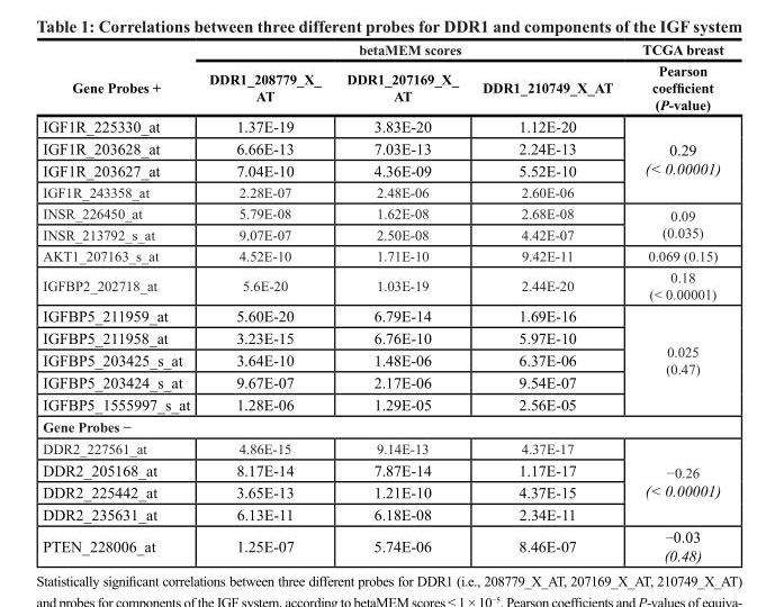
<table><thead><tr><td rowspan="2">Gene Probes +</td><td colspan="3">betaMEM scores</td><td rowspan="2">TCGA breast Pearson coefficient (P-value)</td></tr><tr><td>DDR1_208779_X_ AT</td><td>DDR1_207169_X_ AT</td><td>DDR1_210749_X_AT</td></tr></thead><tbody><tr><td>IGF1R_225330_at</td><td>1.37E-19</td><td>3.83E-20</td><td>1.12E-20</td><td rowspan="4">0.29 (&lt; 0.00001)</td></tr><tr><td>IGF1R_203628_at</td><td>6.66E-13</td><td>7.03E-13</td><td>2.24E-13</td></tr><tr><td>IGF1R_203627_at</td><td>7.04E-10</td><td>4.36E-09</td><td>5.52E-10</td></tr><tr><td>IGF1R_243358_at</td><td>2.28E-07</td><td>2.48E-06</td><td>2.60E-06</td></tr><tr><td>INSR_226450_at</td><td>5.79E-08</td><td>1.62E-08</td><td>2.68E-08</td><td rowspan="2">0.09 (0.035)</td></tr><tr><td>INSR_213792_s_at</td><td>9.07E-07</td><td>2.50E-08</td><td>4.42E-07</td></tr><tr><td>AKT1_207163_s_at</td><td>4.52E-10</td><td>1.71E-10</td><td>9.42E-11</td><td>0.069 (0.15)</td></tr><tr><td>IGFBP2_202718_at</td><td>5.6E-20</td><td>1.03E-19</td><td>2.44E-20</td><td>0.18 (&lt; 0.00001)</td></tr><tr><td>IGFBP5_211959_at</td><td>5.60E-20</td><td>6.79E-14</td><td>1.69E-16</td><td rowspan="5">0.025 (0.47)</td></tr><tr><td>IGFBP5_211958_at</td><td>3.23E-15</td><td>6.76E-10</td><td>5.97E-10</td></tr><tr><td>IGFBP5_203425_s_at</td><td>3.64E-10</td><td>1.48E-06</td><td>6.37E-06</td></tr><tr><td>IGFBP5_203424_s_at</td><td>9.67E-07</td><td>2.17E-06</td><td>9.54E-07</td></tr><tr><td>IGFBP5_1555997_s_at</td><td>1.28E-06</td><td>1.29E-05</td><td>2.56E-05</td></tr><tr><td colspan="5">Gene Probes −</td></tr><tr><td>DDR2_227561_at</td><td>4.86E-15</td><td>9.14E-13</td><td>4.37E-17</td><td rowspan="4">−0.26 (&lt; 0.00001)</td></tr><tr><td>DDR2_205168_at</td><td>8.17E-14</td><td>7.87E-14</td><td>1.17E-17</td></tr><tr><td>DDR2_225442_at</td><td>3.65E-13</td><td>1.21E-10</td><td>4.37E-15</td></tr><tr><td>DDR2_235631_at</td><td>6.13E-11</td><td>6.18E-08</td><td>2.34E-11</td></tr><tr><td>PTEN_228006_at</td><td>1.25E-07</td><td>5.74E-06</td><td>8.46E-07</td><td>−0.03 (0.48)</td></tr></tbody></table>